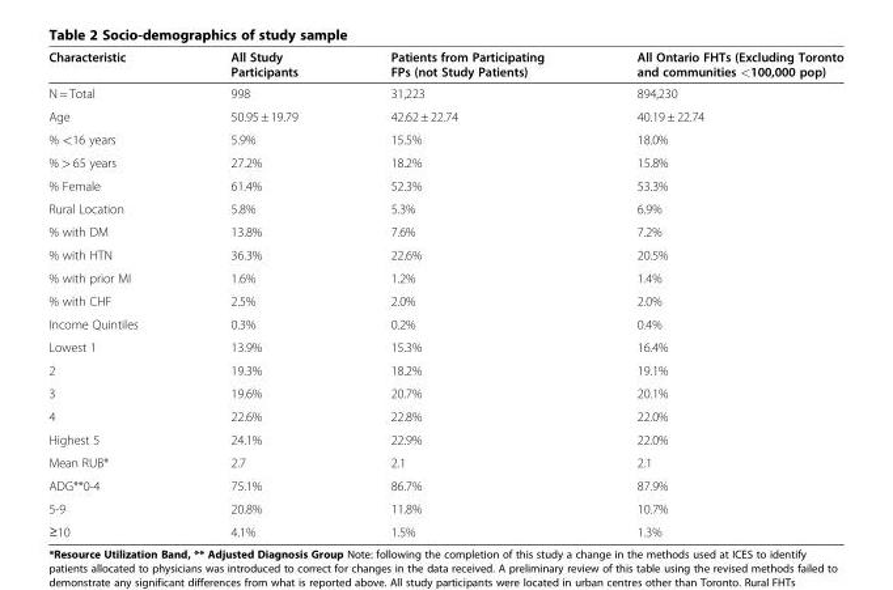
<table><thead><tr><td>Characteristic</td><td>All Study Participants</td><td>Patients from Participating FPs (not Study Patients)</td><td>All Ontario FHTs (Excluding Toronto and communities &lt;100,000 pop)</td></tr></thead><tbody><tr><td>N = Total</td><td>998</td><td>31,223</td><td>894,230</td></tr><tr><td>Age</td><td>50.95 ± 19.79</td><td>42.62 ± 22.74</td><td>40.19 ± 22.74</td></tr><tr><td>% &lt;16 years</td><td>5.9%</td><td>15.5%</td><td>18.0%</td></tr><tr><td>% &gt; 65 years</td><td>27.2%</td><td>18.2%</td><td>15.8%</td></tr><tr><td>% Female</td><td>61.4%</td><td>52.3%</td><td>53.3%</td></tr><tr><td>Rural Location</td><td>5.8%</td><td>5.3%</td><td>6.9%</td></tr><tr><td>% with DM</td><td>13.8%</td><td>7.6%</td><td>7.2%</td></tr><tr><td>% with HTN</td><td>36.3%</td><td>22.6%</td><td>20.5%</td></tr><tr><td>% with prior MI</td><td>1.6%</td><td>1.2%</td><td>1.4%</td></tr><tr><td>% with CHF</td><td>2.5%</td><td>2.0%</td><td>2.0%</td></tr><tr><td>Income Quintiles</td><td>0.3%</td><td>0.2%</td><td>0.4%</td></tr><tr><td>Lowest 1</td><td>13.9%</td><td>15.3%</td><td>16.4%</td></tr><tr><td>2</td><td>19.3%</td><td>18.2%</td><td>19.1%</td></tr><tr><td>3</td><td>19.6%</td><td>20.7%</td><td>20.1%</td></tr><tr><td>4</td><td>22.6%</td><td>22.8%</td><td>22.0%</td></tr><tr><td>Highest 5</td><td>24.1%</td><td>22.9%</td><td>22.0%</td></tr><tr><td>Mean RUB*</td><td>2.7</td><td>2.1</td><td>2.1</td></tr><tr><td>ADG**0-4</td><td>75.1%</td><td>86.7%</td><td>87.9%</td></tr><tr><td>5-9</td><td>20.8%</td><td>11.8%</td><td>10.7%</td></tr><tr><td>≥10</td><td>4.1%</td><td>1.5%</td><td>1.3%</td></tr></tbody></table>